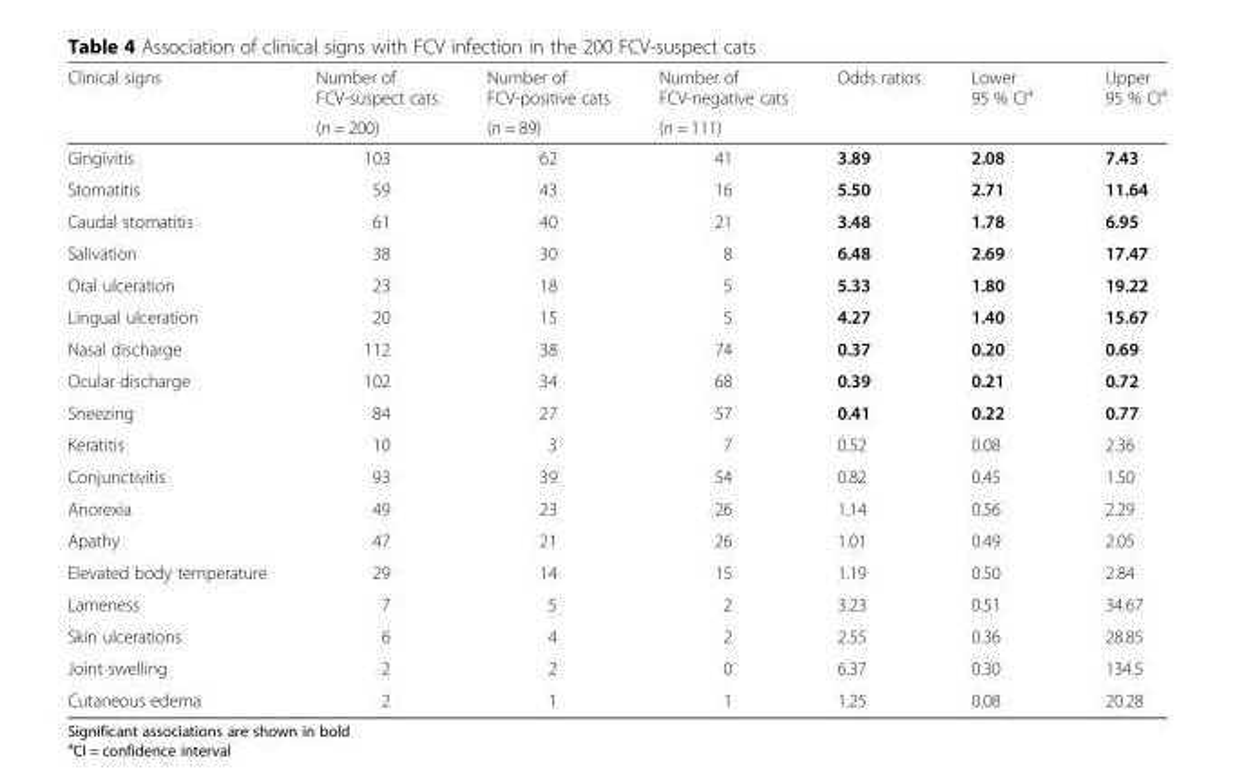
<table><thead><tr><td rowspan="2">Clinical signs</td><td rowspan="2">Number of FCV-suspect cats (n = 200)</td><td rowspan="2">Number of FCV-positive cats (n = 89)</td><td rowspan="2">Number of FCV-negative cats (n = 111)</td><td rowspan="2">Odds ratios</td><td rowspan="2">Lower 95 % CI<sup>a</sup></td><td rowspan="2">Upper 95 % CI<sup>a</sup></td></tr><tr></tr></thead><tbody><tr><td>Gingivitis</td><td>103</td><td>62</td><td>41</td><td>3.89</td><td>2.08</td><td>7.43</td></tr><tr><td>Stomatitis</td><td>59</td><td>43</td><td>16</td><td>5.50</td><td>2.71</td><td>11.64</td></tr><tr><td>Caudal stomatitis</td><td>61</td><td>40</td><td>21</td><td>3.48</td><td>1.78</td><td>6.95</td></tr><tr><td>Salivation</td><td>38</td><td>30</td><td>8</td><td>6.48</td><td>2.69</td><td>17.47</td></tr><tr><td>Oral ulceration</td><td>23</td><td>18</td><td>5</td><td>5.33</td><td>1.80</td><td>19.22</td></tr><tr><td>Lingual ulceration</td><td>20</td><td>15</td><td>5</td><td>4.27</td><td>1.40</td><td>15.67</td></tr><tr><td>Nasal discharge</td><td>112</td><td>38</td><td>74</td><td>0.37</td><td>0.20</td><td>0.69</td></tr><tr><td>Ocular discharge</td><td>102</td><td>34</td><td>68</td><td>0.39</td><td>0.21</td><td>0.72</td></tr><tr><td>Sneezing</td><td>84</td><td>27</td><td>57</td><td>0.41</td><td>0.22</td><td>0.77</td></tr><tr><td>Keratitis</td><td>10</td><td>3</td><td>7</td><td>0.52</td><td>0.08</td><td>2.36</td></tr><tr><td>Conjunctivitis</td><td>93</td><td>39</td><td>54</td><td>0.82</td><td>0.45</td><td>1.50</td></tr><tr><td>Anorexia</td><td>49</td><td>23</td><td>26</td><td>1.14</td><td>0.56</td><td>2.29</td></tr><tr><td>Apathy</td><td>47</td><td>21</td><td>26</td><td>1.01</td><td>0.49</td><td>2.05</td></tr><tr><td>Elevated body temperature</td><td>29</td><td>14</td><td>15</td><td>1.19</td><td>0.50</td><td>2.84</td></tr><tr><td>Lameness</td><td>7</td><td>5</td><td>2</td><td>3.23</td><td>0.51</td><td>34.67</td></tr><tr><td>Skin ulcerations</td><td>6</td><td>4</td><td>2</td><td>2.55</td><td>0.36</td><td>28.85</td></tr><tr><td>Joint swelling</td><td>2</td><td>2</td><td>0</td><td>6.37</td><td>0.30</td><td>134.5</td></tr><tr><td>Cutaneous edema</td><td>2</td><td>1</td><td>1</td><td>1.25</td><td>0.08</td><td>20.28</td></tr></tbody></table>